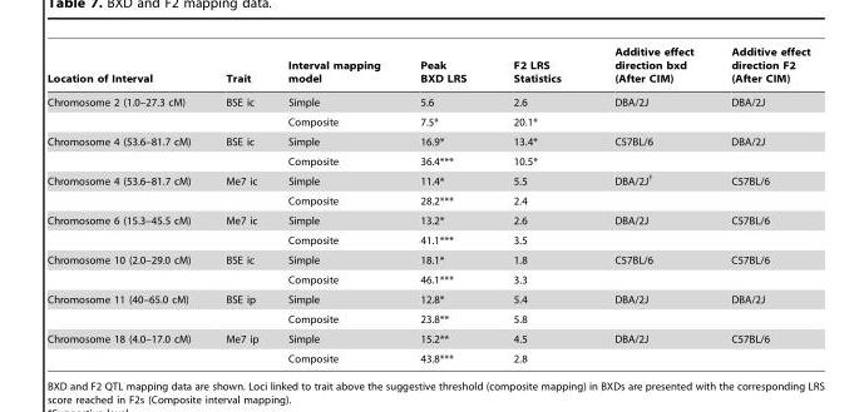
<table><thead><tr><td>Location of Interval</td><td>Trait</td><td>Interval mapping model</td><td>Peak BXD LRS</td><td>F2 LRS Statistics</td><td>Additive effect direction bxd (After CIM)</td><td>Additive effect direction F2 (After CIM)</td></tr></thead><tbody><tr><td rowspan="2">Chromosome 2 (1.0–27.3 cM)</td><td>BSE ic</td><td>Simple</td><td>5.6</td><td>2.6</td><td>DBA/2J</td><td>DBA/2J</td></tr><tr><td></td><td>Composite</td><td>7.5*</td><td>20.1*</td><td></td><td></td></tr><tr><td rowspan="2">Chromosome 4 (53.6–81.7 cM)</td><td>BSE ic</td><td>Simple</td><td>16.9*</td><td>13.4*</td><td>C57BL/6</td><td>DBA/2J</td></tr><tr><td></td><td>Composite</td><td>36.4***</td><td>10.5*</td><td></td><td></td></tr><tr><td rowspan="2">Chromosome 4 (53.6–81.7 cM)</td><td>Me7 ic</td><td>Simple</td><td>11.4*</td><td>5.5</td><td>DBA/2J<sup>†</sup></td><td>C57BL/6</td></tr><tr><td></td><td>Composite</td><td>28.2***</td><td>2.4</td><td></td><td></td></tr><tr><td rowspan="2">Chromosome 6 (15.3–45.5 cM)</td><td>Me7 ic</td><td>Simple</td><td>13.2*</td><td>2.6</td><td>DBA/2J</td><td>C57BL/6</td></tr><tr><td></td><td>Composite</td><td>41.1***</td><td>3.5</td><td></td><td></td></tr><tr><td rowspan="2">Chromosome 10 (2.0–29.0 cM)</td><td>BSE ic</td><td>Simple</td><td>18.1*</td><td>1.8</td><td>C57BL/6</td><td>C57BL/6</td></tr><tr><td></td><td>Composite</td><td>46.1***</td><td>3.3</td><td></td><td></td></tr><tr><td rowspan="2">Chromosome 11 (40–65.0 cM)</td><td>BSE ip</td><td>Simple</td><td>12.8*</td><td>5.4</td><td>DBA/2J</td><td>DBA/2J</td></tr><tr><td></td><td>Composite</td><td>23.8**</td><td>5.8</td><td></td><td></td></tr><tr><td rowspan="2">Chromosome 18 (4.0–17.0 cM)</td><td>Me7 ip</td><td>Simple</td><td>15.2**</td><td>4.5</td><td>DBA/2J</td><td>C57BL/6</td></tr><tr><td></td><td>Composite</td><td>43.8***</td><td>2.8</td><td></td><td></td></tr></tbody></table>